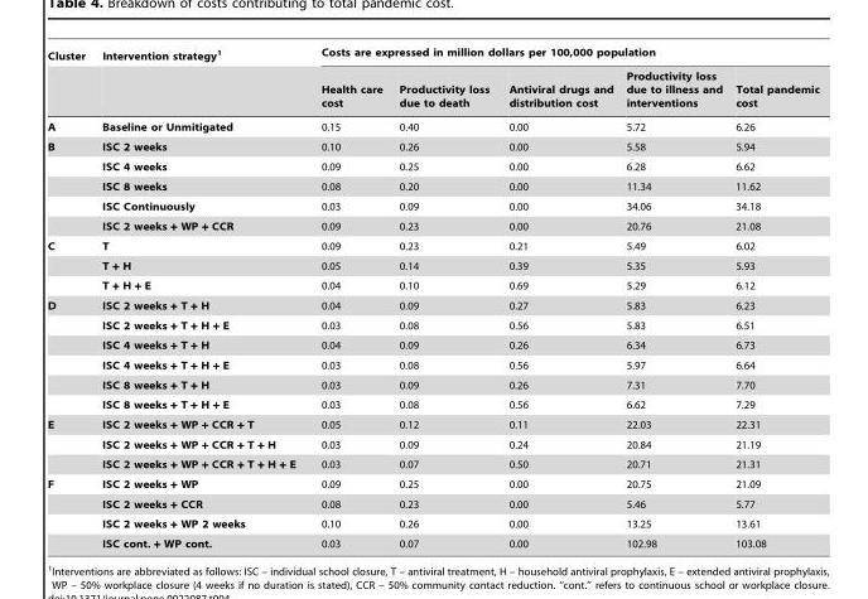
<table><thead><tr><td rowspan="2">Cluster</td><td rowspan="2">Intervention strategy<sup>1</sup></td><td colspan="5">Costs are expressed in million dollars per 100,000 population</td></tr><tr><td>Health care cost</td><td>Productivity loss due to death</td><td>Antiviral drugs and distribution cost</td><td>Productivity loss due to illness and interventions</td><td>Total pandemic cost</td></tr></thead><tbody><tr><td>A</td><td>Baseline or Unmitigated</td><td>0.15</td><td>0.40</td><td>0.00</td><td>5.72</td><td>6.26</td></tr><tr><td rowspan="5">B</td><td>ISC 2 weeks</td><td>0.10</td><td>0.26</td><td>0.00</td><td>5.58</td><td>5.94</td></tr><tr><td>ISC 4 weeks</td><td>0.09</td><td>0.25</td><td>0.00</td><td>6.28</td><td>6.62</td></tr><tr><td>ISC 8 weeks</td><td>0.08</td><td>0.20</td><td>0.00</td><td>11.34</td><td>11.62</td></tr><tr><td>ISC Continuously</td><td>0.03</td><td>0.09</td><td>0.00</td><td>34.06</td><td>34.18</td></tr><tr><td>ISC 2 weeks + WP + CCR</td><td>0.09</td><td>0.23</td><td>0.00</td><td>20.76</td><td>21.08</td></tr><tr><td rowspan="3">C</td><td>T</td><td>0.09</td><td>0.23</td><td>0.21</td><td>5.49</td><td>6.02</td></tr><tr><td>T + H</td><td>0.05</td><td>0.14</td><td>0.39</td><td>5.35</td><td>5.93</td></tr><tr><td>T + H + E</td><td>0.04</td><td>0.10</td><td>0.69</td><td>5.29</td><td>6.12</td></tr><tr><td rowspan="6">D</td><td>ISC 2 weeks + T + H</td><td>0.04</td><td>0.09</td><td>0.27</td><td>5.83</td><td>6.23</td></tr><tr><td>ISC 2 weeks + T + H + E</td><td>0.03</td><td>0.08</td><td>0.56</td><td>5.83</td><td>6.51</td></tr><tr><td>ISC 4 weeks + T + H</td><td>0.04</td><td>0.09</td><td>0.26</td><td>6.34</td><td>6.73</td></tr><tr><td>ISC 4 weeks + T + H + E</td><td>0.03</td><td>0.08</td><td>0.56</td><td>5.97</td><td>6.64</td></tr><tr><td>ISC 8 weeks + T + H</td><td>0.03</td><td>0.09</td><td>0.26</td><td>7.31</td><td>7.70</td></tr><tr><td>ISC 8 weeks + T + H + E</td><td>0.03</td><td>0.08</td><td>0.56</td><td>6.62</td><td>7.29</td></tr><tr><td rowspan="3">E</td><td>ISC 2 weeks + WP + CCR + T</td><td>0.05</td><td>0.12</td><td>0.11</td><td>22.03</td><td>22.31</td></tr><tr><td>ISC 2 weeks + WP + CCR + T + H</td><td>0.03</td><td>0.09</td><td>0.24</td><td>20.84</td><td>21.19</td></tr><tr><td>ISC 2 weeks + WP + CCR + T + H + E</td><td>0.03</td><td>0.07</td><td>0.50</td><td>20.71</td><td>21.31</td></tr><tr><td rowspan="4">F</td><td>ISC 2 weeks + WP</td><td>0.09</td><td>0.25</td><td>0.00</td><td>20.75</td><td>21.09</td></tr><tr><td>ISC 2 weeks + CCR</td><td>0.08</td><td>0.23</td><td>0.00</td><td>5.46</td><td>5.77</td></tr><tr><td>ISC 2 weeks + WP 2 weeks</td><td>0.10</td><td>0.26</td><td>0.00</td><td>13.25</td><td>13.61</td></tr><tr><td>ISC cont. + WP cont.</td><td>0.03</td><td>0.07</td><td>0.00</td><td>102.98</td><td>103.08</td></tr></tbody></table>